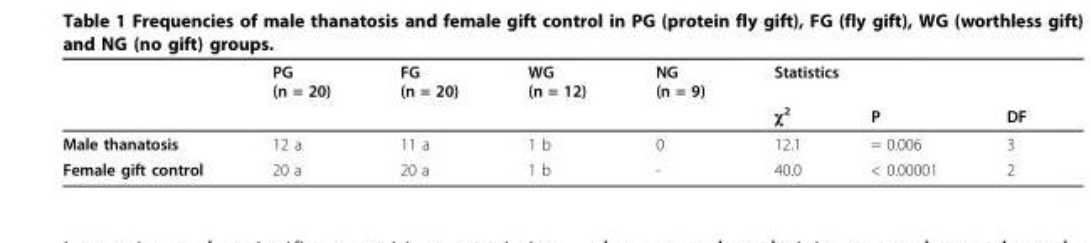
<table><thead><tr><td rowspan="2"></td><td rowspan="2">PG (n = 20)</td><td rowspan="2">FG (n = 20)</td><td rowspan="2">WG (n = 12)</td><td rowspan="2">NG (n = 9)</td><td colspan="3">Statistics</td></tr><tr><td>χ<sup>2</sup></td><td>P</td><td>DF</td></tr></thead><tbody><tr><td>Male thanatosis</td><td>12 a</td><td>11 a</td><td>1 b</td><td>0</td><td>12.1</td><td>= 0.006</td><td>3</td></tr><tr><td>Female gift control</td><td>20 a</td><td>20 a</td><td>1 b</td><td>-</td><td>40.0</td><td>&lt; 0.00001</td><td>2</td></tr></tbody></table>